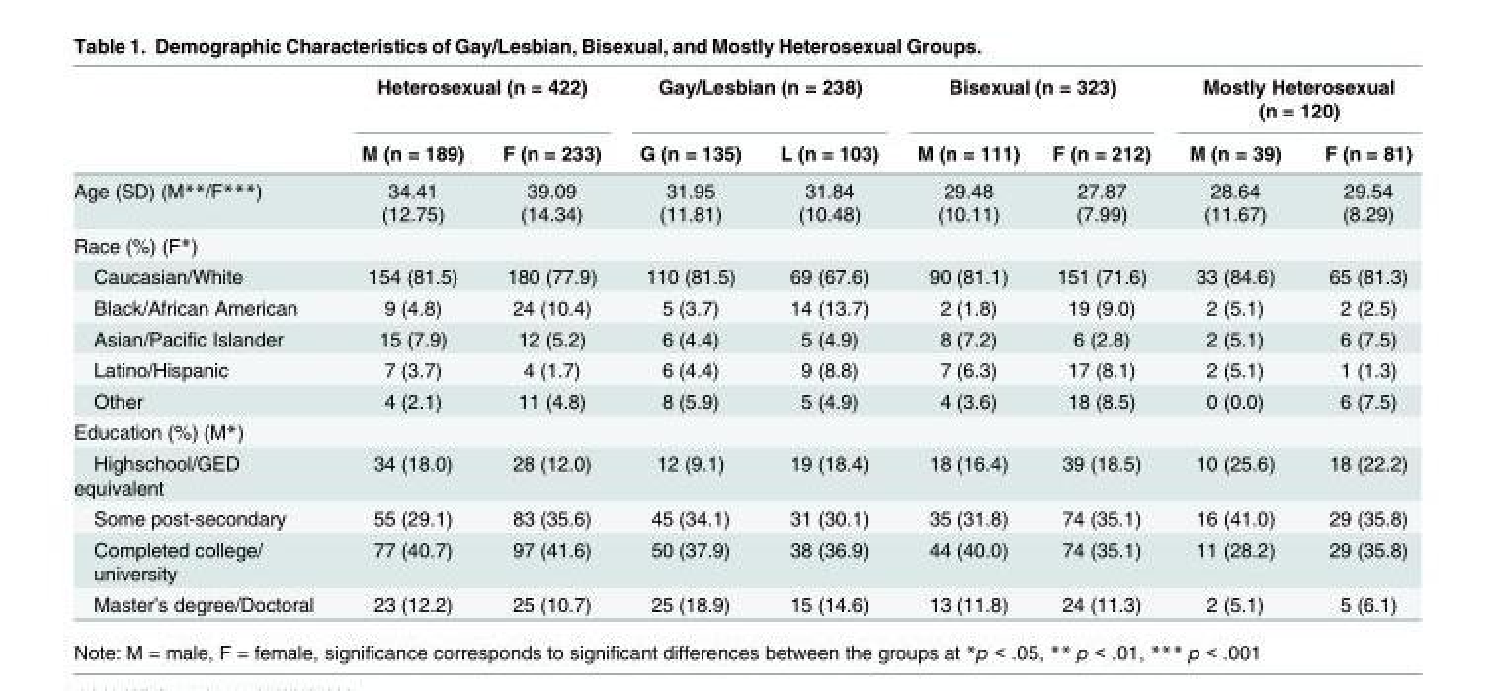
<table><thead><tr><td rowspan="2"></td><td colspan="2">Heterosexual (n = 422)</td><td colspan="2">Gay/Lesbian (n = 238)</td><td colspan="2">Bisexual (n = 323)</td><td colspan="2">Mostly Heterosexual (n = 120)</td></tr><tr><td>M (n = 189)</td><td>F (n = 233)</td><td>G (n = 135)</td><td>L (n = 103)</td><td>M (n = 111)</td><td>F (n = 212)</td><td>M (n = 39)</td><td>F (n = 81)</td></tr></thead><tbody><tr><td>Age (SD) (M**/F***)</td><td>34.41 (12.75)</td><td>39.09 (14.34)</td><td>31.95 (11.81)</td><td>31.84 (10.48)</td><td>29.48 (10.11)</td><td>27.87 (7.99)</td><td>28.64 (11.67)</td><td>29.54 (8.29)</td></tr><tr><td colspan="9">Race (%) (F*)</td></tr><tr><td>Caucasian/White</td><td>154 (81.5)</td><td>180 (77.9)</td><td>110 (81.5)</td><td>69 (67.6)</td><td>90 (81.1)</td><td>151 (71.6)</td><td>33 (84.6)</td><td>65 (81.3)</td></tr><tr><td>Black/African American</td><td>9 (4.8)</td><td>24 (10.4)</td><td>5 (3.7)</td><td>14 (13.7)</td><td>2 (1.8)</td><td>19 (9.0)</td><td>2 (5.1)</td><td>2 (2.5)</td></tr><tr><td>Asian/Pacific Islander</td><td>15 (7.9)</td><td>12 (5.2)</td><td>6 (4.4)</td><td>5 (4.9)</td><td>8 (7.2)</td><td>6 (2.8)</td><td>2 (5.1)</td><td>6 (7.5)</td></tr><tr><td>Latino/Hispanic</td><td>7 (3.7)</td><td>4 (1.7)</td><td>6 (4.4)</td><td>9 (8.8)</td><td>7 (6.3)</td><td>17 (8.1)</td><td>2 (5.1)</td><td>1 (1.3)</td></tr><tr><td>Other</td><td>4 (2.1)</td><td>11 (4.8)</td><td>8 (5.9)</td><td>5 (4.9)</td><td>4 (3.6)</td><td>18 (8.5)</td><td>0 (0.0)</td><td>6 (7.5)</td></tr><tr><td colspan="9">Education (%) (M*)</td></tr><tr><td>Highschool/GED equivalent</td><td>34 (18.0)</td><td>28 (12.0)</td><td>12 (9.1)</td><td>19 (18.4)</td><td>18 (16.4)</td><td>39 (18.5)</td><td>10 (25.6)</td><td>18 (22.2)</td></tr><tr><td>Some post-secondary</td><td>55 (29.1)</td><td>83 (35.6)</td><td>45 (34.1)</td><td>31 (30.1)</td><td>35 (31.8)</td><td>74 (35.1)</td><td>16 (41.0)</td><td>29 (35.8)</td></tr><tr><td>Completed college/ university</td><td>77 (40.7)</td><td>97 (41.6)</td><td>50 (37.9)</td><td>38 (36.9)</td><td>44 (40.0)</td><td>74 (35.1)</td><td>11 (28.2)</td><td>29 (35.8)</td></tr><tr><td>Master’s degree/Doctoral</td><td>23 (12.2)</td><td>25 (10.7)</td><td>25 (18.9)</td><td>15 (14.6)</td><td>13 (11.8)</td><td>24 (11.3)</td><td>2 (5.1)</td><td>5 (6.1)</td></tr></tbody></table>